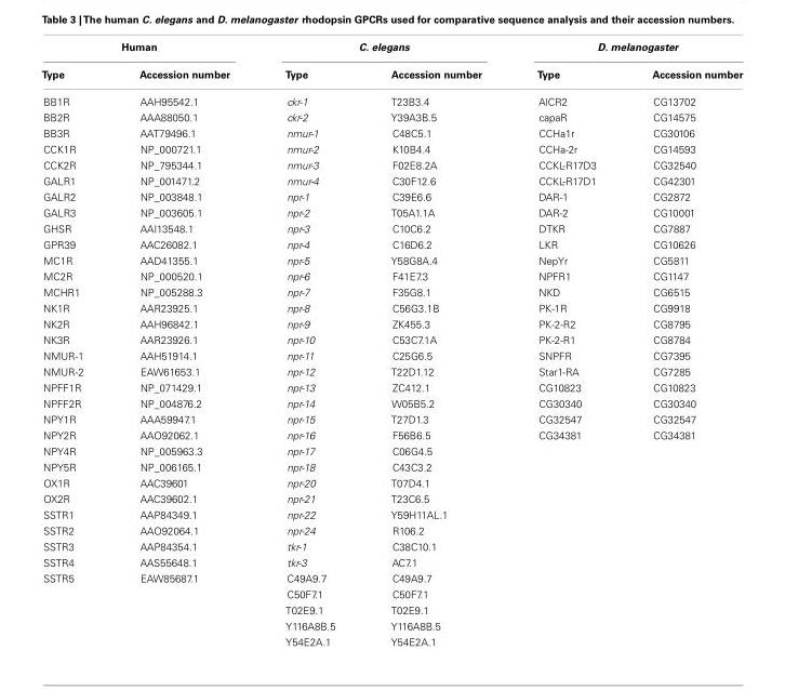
<table><thead><tr><td colspan="2">Human</td><td colspan="2">C. elegans</td><td colspan="2">D. melanogaster</td></tr><tr><td>Type</td><td>Accession number</td><td>Type</td><td>Accession number</td><td>Type</td><td>Accession number</td></tr></thead><tbody><tr><td>BB1R</td><td>AAH95542.1</td><td>ckr-1</td><td>T23B3.4</td><td>AlCR2</td><td>CG13702</td></tr><tr><td>BB2R</td><td>AAA88050.1</td><td>ckr-2</td><td>Y39A3B.5</td><td>capaR</td><td>CG14575</td></tr><tr><td>BB3R</td><td>AAT79496.1</td><td>nmur-1</td><td>C48C5.1</td><td>CCHa1r</td><td>CG30106</td></tr><tr><td>CCK1R</td><td>NP_000721.1</td><td>nmur-2</td><td>K10B4.4</td><td>CCHa-2r</td><td>CG14593</td></tr><tr><td>CCK2R</td><td>NP_795344.1</td><td>nmur-3</td><td>F02E8.2A</td><td>CCKL-R17D3</td><td>CG32540</td></tr><tr><td>GALR1</td><td>NP_001471.2</td><td>nmur-4</td><td>C30F12.6</td><td>CCKL-R17D1</td><td>CG42301</td></tr><tr><td>GALR2</td><td>NP_003848.1</td><td>npr-1</td><td>C39E6.6</td><td>DAR-1</td><td>CG2872</td></tr><tr><td>GALR3</td><td>NP_003605.1</td><td>npr-2</td><td>T05A1.1A</td><td>DAR-2</td><td>CG10001</td></tr><tr><td>GHSR</td><td>AAI13548.1</td><td>npr-3</td><td>C10C6.2</td><td>DTKR</td><td>CG7887</td></tr><tr><td>GPR39</td><td>AAC26082.1</td><td>npr-4</td><td>C16D6.2</td><td>LKR</td><td>CG10626</td></tr><tr><td>MC1R</td><td>AAD41355.1</td><td>npr-5</td><td>Y58G8A.4</td><td>NepYr</td><td>CG5811</td></tr><tr><td>MC2R</td><td>NP_000520.1</td><td>npr-6</td><td>F41E7.3</td><td>NPFR1</td><td>CG1147</td></tr><tr><td>MCHR1</td><td>NP_005288.3</td><td>npr-7</td><td>F35G8.1</td><td>NKD</td><td>CG6515</td></tr><tr><td>NK1R</td><td>AAR23925.1</td><td>npr-8</td><td>C56G3.1B</td><td>PK-1R</td><td>CG9918</td></tr><tr><td>NK2R</td><td>AAH96842.1</td><td>npr-9</td><td>ZK455.3</td><td>PK-2-R2</td><td>CG8795</td></tr><tr><td>NK3R</td><td>AAR23926.1</td><td>npr-10</td><td>C53C7.1A</td><td>PK-2-R1</td><td>CG8784</td></tr><tr><td>NMUR-1</td><td>AAH51914.1</td><td>npr-11</td><td>C25G6.5</td><td>SNPFR</td><td>CG7395</td></tr><tr><td>NMUR-2</td><td>EAW61653.1</td><td>npr-12</td><td>T22D1.12</td><td>Star1-RA</td><td>CG7285</td></tr><tr><td>NPFF1R</td><td>NP_071429.1</td><td>npr-13</td><td>ZC412.1</td><td>CG10823</td><td>CG10823</td></tr><tr><td>NPFF2R</td><td>NP_004876.2</td><td>npr-14</td><td>W05B5.2</td><td>CG30340</td><td>CG30340</td></tr><tr><td>NPY1R</td><td>AAA59947.1</td><td>npr-15</td><td>T27D1.3</td><td>CG32547</td><td>CG32547</td></tr><tr><td>NPY2R</td><td>AAO92062.1</td><td>npr-16</td><td>F56B6.5</td><td>CG34381</td><td>CG34381</td></tr><tr><td>NPY4R</td><td>NP_005963.3</td><td>npr-17</td><td>C06G4.5</td><td></td><td></td></tr><tr><td>NPY5R</td><td>NP_006165.1</td><td>npr-18</td><td>C43C3.2</td><td></td><td></td></tr><tr><td>OX1R</td><td>AAC39601</td><td>npr-20</td><td>T07D4.1</td><td></td><td></td></tr><tr><td>OX2R</td><td>AAC39602.1</td><td>npr-21</td><td>T23C6.5</td><td></td><td></td></tr><tr><td>SSTR1</td><td>AAP84349.1</td><td>npr-22</td><td>Y59H11AL.1</td><td></td><td></td></tr><tr><td>SSTR2</td><td>AAO92064.1</td><td>npr-24</td><td>R106.2</td><td></td><td></td></tr><tr><td>SSTR3</td><td>AAP84354.1</td><td>tkr-1</td><td>C38C10.1</td><td></td><td></td></tr><tr><td>SSTR4</td><td>AAS55648.1</td><td>tkr-3</td><td>AC7.1</td><td></td><td></td></tr><tr><td rowspan="5">SSTR5</td><td>EAW85687.1</td><td>C49A9.7</td><td>C49A9.7</td><td></td><td></td></tr><tr><td></td><td>C50F7.1</td><td>C50F7.1</td><td></td><td></td></tr><tr><td></td><td>T02E9.1</td><td>T02E9.1</td><td></td><td></td></tr><tr><td></td><td>Y116A8B.5</td><td>Y116A8B.5</td><td></td><td></td></tr><tr><td></td><td>Y54E2A.1</td><td>Y54E2A.1</td><td></td><td></td></tr></tbody></table>